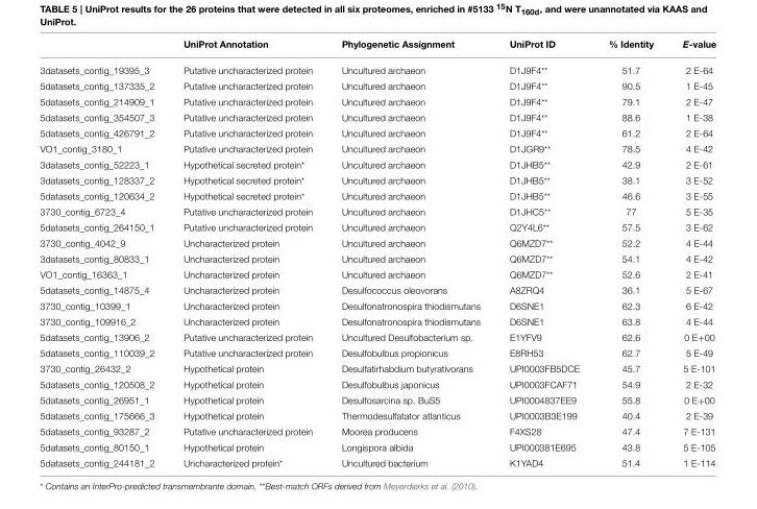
<table><thead><tr><td></td><td>UniProt Annotation</td><td>Phylogenetic Assignment</td><td>UniProt ID</td><td>% Identity</td><td>E-value</td></tr></thead><tbody><tr><td>3datasets_contig_19395_3</td><td>Putative uncharacterized protein</td><td>Uncultured archaeon</td><td>D1J9F4**</td><td>51.7</td><td>2 E-64</td></tr><tr><td>5datasets_contig_137335_2</td><td>Putative uncharacterized protein</td><td>Uncultured archaeon</td><td>D1J9F4**</td><td>90.5</td><td>1 E-45</td></tr><tr><td>5datasets_contig_214909_1</td><td>Putative uncharacterized protein</td><td>Uncultured archaeon</td><td>D1J9F4**</td><td>79.1</td><td>2 E-47</td></tr><tr><td>5datasets_contig_354507_3</td><td>Putative uncharacterized protein</td><td>Uncultured archaeon</td><td>D1J9F4**</td><td>88.6</td><td>1 E-38</td></tr><tr><td>5datasets_contig_426791_2</td><td>Putative uncharacterized protein</td><td>Uncultured archaeon</td><td>D1J9F4**</td><td>61.2</td><td>2 E-64</td></tr><tr><td>VO1_contig_3180_1</td><td>Putative uncharacterized protein</td><td>Uncultured archaeon</td><td>D1JGR9**</td><td>78.5</td><td>4 E-42</td></tr><tr><td>3datasets_contig_52223_1</td><td>Hypothetical secreted protein*</td><td>Uncultured archaeon</td><td>D1JHB5**</td><td>42.9</td><td>2 E-61</td></tr><tr><td>3datasets_contig_128337_2</td><td>Hypothetical secreted protein*</td><td>Uncultured archaeon</td><td>D1JHB5**</td><td>38.1</td><td>3 E-52</td></tr><tr><td>5datasets_contig_120634_2</td><td>Hypothetical secreted protein*</td><td>Uncultured archaeon</td><td>D1JHB5**</td><td>46.6</td><td>3 E-55</td></tr><tr><td>3730_contig_6723_4</td><td>Putative uncharacterized protein</td><td>Uncultured archaeon</td><td>D1JHC5**</td><td>77</td><td>5 E-35</td></tr><tr><td>5datasets_contig_264150_1</td><td>Putative uncharacterized protein</td><td>Uncultured archaeon</td><td>Q2Y4L6**</td><td>57.5</td><td>3 E-62</td></tr><tr><td>3730_contig_4042_9</td><td>Uncharacterized protein</td><td>Uncultured archaeon</td><td>Q6MZD7**</td><td>52.2</td><td>4 E-44</td></tr><tr><td>3datasets_contig_80833_1</td><td>Uncharacterized protein</td><td>Uncultured archaeon</td><td>Q6MZD7**</td><td>54.1</td><td>4 E-42</td></tr><tr><td>VO1_contig_16363_1</td><td>Uncharacterized protein</td><td>Uncultured archaeon</td><td>Q6MZD7**</td><td>52.6</td><td>2 E-41</td></tr><tr><td>5datasets_contig_14875_4</td><td>Uncharacterized protein</td><td>Desulfococcus oleovorans</td><td>A8ZRQ4</td><td>36.1</td><td>5 E-67</td></tr><tr><td>3730_contig_10399_1</td><td>Uncharacterized protein</td><td>Desulfonatronospira thiodismutans</td><td>D6SNE1</td><td>62.3</td><td>6 E-42</td></tr><tr><td>3730_contig_109916_2</td><td>Uncharacterized protein</td><td>Desulfonatronospira thiodismutans</td><td>D6SNE1</td><td>63.8</td><td>4 E-44</td></tr><tr><td>5datasets_contig_13906_2</td><td>Putative uncharacterized protein</td><td>Uncultured Desulfobacterium sp.</td><td>E1YFV9</td><td>62.6</td><td>0 E+00</td></tr><tr><td>5datasets_contig_110039_2</td><td>Putative uncharacterized protein</td><td>Desulfobulbus propionicus</td><td>E8RH53</td><td>62.7</td><td>5 E-49</td></tr><tr><td>3730_contig_26432_2</td><td>Hypothetical protein</td><td>Desulfatirhabdium butyrativorans</td><td>UPI0003FB5DCE</td><td>45.7</td><td>5 E-101</td></tr><tr><td>5datasets_contig_120508_2</td><td>Hypothetical protein</td><td>Desulfobulbus japonicus</td><td>UPI0003FCAF71</td><td>54.9</td><td>2 E-32</td></tr><tr><td>5datasets_contig_26951_1</td><td>Hypothetical protein</td><td>Desulfosarcina sp. BuS5</td><td>UPI0004837EE9</td><td>55.8</td><td>0 E+00</td></tr><tr><td>5datasets_contig_175666_3</td><td>Hypothetical protein</td><td>Thermodesulfatator atlanticus</td><td>UPI0003B3E199</td><td>40.4</td><td>2 E-39</td></tr><tr><td>5datasets_contig_93287_2</td><td>Putative uncharacterized protein</td><td>Moorea producens</td><td>F4XS28</td><td>47.4</td><td>7 E-131</td></tr><tr><td>5datasets_contig_80150_1</td><td>Hypothetical protein</td><td>Longispora albida</td><td>UPI000381E695</td><td>43.8</td><td>5 E-105</td></tr><tr><td>5datasets_contig_244181_2</td><td>Uncharacterized protein*</td><td>Uncultured bacterium</td><td>K1YAD4</td><td>51.4</td><td>1 E-114</td></tr></tbody></table>